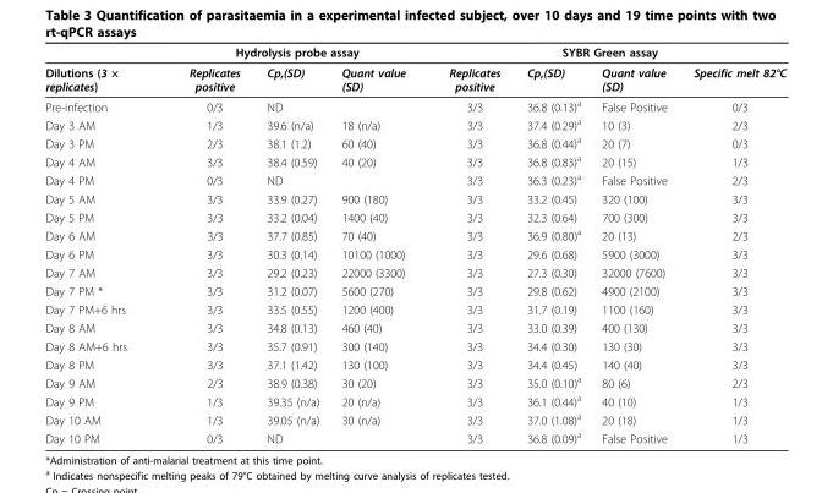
<table><thead><tr><td rowspan="2">Dilutions (3 × replicates)</td><td colspan="3">Hydrolysis probe assay</td><td colspan="4">SYBR Green assay</td></tr><tr><td>Replicates positive</td><td>Cp,(SD)</td><td>Quant value (SD)</td><td>Replicates positive</td><td>Cp,(SD)</td><td>Quant value (SD)</td><td>Specific melt 82°C</td></tr></thead><tbody><tr><td>Pre-infection</td><td>0/3</td><td>ND</td><td></td><td>3/3</td><td>36.8 (0.13)<sup>a</sup></td><td>False Positive</td><td>0/3</td></tr><tr><td>Day 3 AM</td><td>1/3</td><td>39.6 (n/a)</td><td>18 (n/a)</td><td>3/3</td><td>37.4 (0.29)<sup>a</sup></td><td>10 (3)</td><td>2/3</td></tr><tr><td>Day 3 PM</td><td>2/3</td><td>38.1 (1.2)</td><td>60 (40)</td><td>3/3</td><td>36.8 (0.44)<sup>a</sup></td><td>20 (7)</td><td>0/3</td></tr><tr><td>Day 4 AM</td><td>3/3</td><td>38.4 (0.59)</td><td>40 (20)</td><td>3/3</td><td>36.8 (0.83)<sup>a</sup></td><td>20 (15)</td><td>1/3</td></tr><tr><td>Day 4 PM</td><td>0/3</td><td>ND</td><td></td><td>3/3</td><td>36.3 (0.23)<sup>a</sup></td><td>False Positive</td><td>2/3</td></tr><tr><td>Day 5 AM</td><td>3/3</td><td>33.9 (0.27)</td><td>900 (180)</td><td>3/3</td><td>33.2 (0.45)</td><td>320 (100)</td><td>3/3</td></tr><tr><td>Day 5 PM</td><td>3/3</td><td>33.2 (0.04)</td><td>1400 (40)</td><td>3/3</td><td>32.3 (0.64)</td><td>700 (300)</td><td>3/3</td></tr><tr><td>Day 6 AM</td><td>3/3</td><td>37.7 (0.85)</td><td>70 (40)</td><td>3/3</td><td>36.9 (0.80)<sup>a</sup></td><td>20 (13)</td><td>2/3</td></tr><tr><td>Day 6 PM</td><td>3/3</td><td>30.3 (0.14)</td><td>10100 (1000)</td><td>3/3</td><td>29.6 (0.68)</td><td>5900 (3000)</td><td>3/3</td></tr><tr><td>Day 7 AM</td><td>3/3</td><td>29.2 (0.23)</td><td>22000 (3300)</td><td>3/3</td><td>27.3 (0.30)</td><td>32000 (7600)</td><td>3/3</td></tr><tr><td>Day 7 PM *</td><td>3/3</td><td>31.2 (0.07)</td><td>5600 (270)</td><td>3/3</td><td>29.8 (0.62)</td><td>4900 (2100)</td><td>3/3</td></tr><tr><td>Day 7 PM+6 hrs</td><td>3/3</td><td>33.5 (0.55)</td><td>1200 (400)</td><td>3/3</td><td>31.7 (0.19)</td><td>1100 (160)</td><td>3/3</td></tr><tr><td>Day 8 AM</td><td>3/3</td><td>34.8 (0.13)</td><td>460 (40)</td><td>3/3</td><td>33.0 (0.39)</td><td>400 (130)</td><td>3/3</td></tr><tr><td>Day 8 AM+6 hrs</td><td>3/3</td><td>35.7 (0.91)</td><td>300 (140)</td><td>3/3</td><td>34.4 (0.30)</td><td>130 (30)</td><td>3/3</td></tr><tr><td>Day 8 PM</td><td>3/3</td><td>37.1 (1.42)</td><td>130 (100)</td><td>3/3</td><td>34.4 (0.45)</td><td>140 (40)</td><td>3/3</td></tr><tr><td>Day 9 AM</td><td>2/3</td><td>38.9 (0.38)</td><td>30 (20)</td><td>3/3</td><td>35.0 (0.10)<sup>a</sup></td><td>80 (6)</td><td>2/3</td></tr><tr><td>Day 9 PM</td><td>1/3</td><td>39.35 (n/a)</td><td>20 (n/a)</td><td>3/3</td><td>36.1 (0.44)<sup>a</sup></td><td>40 (10)</td><td>1/3</td></tr><tr><td>Day 10 AM</td><td>1/3</td><td>39.05 (n/a)</td><td>30 (n/a)</td><td>3/3</td><td>37.0 (1.08)<sup>a</sup></td><td>20 (18)</td><td>1/3</td></tr><tr><td>Day 10 PM</td><td>0/3</td><td>ND</td><td></td><td>3/3</td><td>36.8 (0.09)<sup>a</sup></td><td>False Positive</td><td>1/3</td></tr></tbody></table>